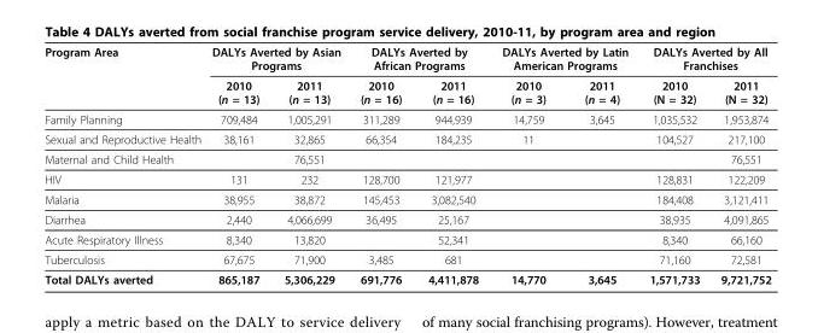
<table><thead><tr><td rowspan="2">Program Area</td><td colspan="2">DALYs Averted by Asian Programs</td><td colspan="2">DALYs Averted by African Programs</td><td colspan="2">DALYs Averted by Latin American Programs</td><td colspan="2">DALYs Averted by All Franchises</td></tr><tr><td>2010 (n = 13)</td><td>2011 (n = 13)</td><td>2010 (n = 16)</td><td>2011 (n = 16)</td><td>2010 (n = 3)</td><td>2011 (n = 4)</td><td>2010 (N = 32)</td><td>2011 (N = 32)</td></tr></thead><tbody><tr><td>Family Planning</td><td>709,484</td><td>1,005,291</td><td>311,289</td><td>944,939</td><td>14,759</td><td>3,645</td><td>1,035,532</td><td>1,953,874</td></tr><tr><td>Sexual and Reproductive Health</td><td>38,161</td><td>32,865</td><td>66,354</td><td>184,235</td><td>11</td><td></td><td>104,527</td><td>217,100</td></tr><tr><td>Maternal and Child Health</td><td></td><td>76,551</td><td></td><td></td><td></td><td></td><td></td><td>76,551</td></tr><tr><td>HIV</td><td>131</td><td>232</td><td>128,700</td><td>121,977</td><td></td><td></td><td>128,831</td><td>122,209</td></tr><tr><td>Malaria</td><td>38,955</td><td>38,872</td><td>145,453</td><td>3,082,540</td><td></td><td></td><td>184,408</td><td>3,121,411</td></tr><tr><td>Diarrhea</td><td>2,440</td><td>4,066,699</td><td>36,495</td><td>25,167</td><td></td><td></td><td>38,935</td><td>4,091,865</td></tr><tr><td>Acute Respiratory Illness</td><td>8,340</td><td>13,820</td><td></td><td>52,341</td><td></td><td></td><td>8,340</td><td>66,160</td></tr><tr><td>Tuberculosis</td><td>67,675</td><td>71,900</td><td>3,485</td><td>681</td><td></td><td></td><td>71,160</td><td>72,581</td></tr><tr><td>Total DALYs averted</td><td>865,187</td><td>5,306,229</td><td>691,776</td><td>4,411,878</td><td>14,770</td><td>3,645</td><td>1,571,733</td><td>9,721,752</td></tr></tbody></table>